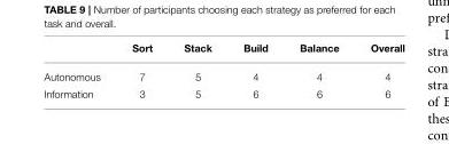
<table><thead><tr><td></td><td>Sort</td><td>Stack</td><td>Build</td><td>Balance</td><td>Overall</td></tr></thead><tbody><tr><td>Autonomous</td><td>7</td><td>5</td><td>4</td><td>4</td><td>4</td></tr><tr><td>Information</td><td>3</td><td>5</td><td>6</td><td>6</td><td>6</td></tr></tbody></table>